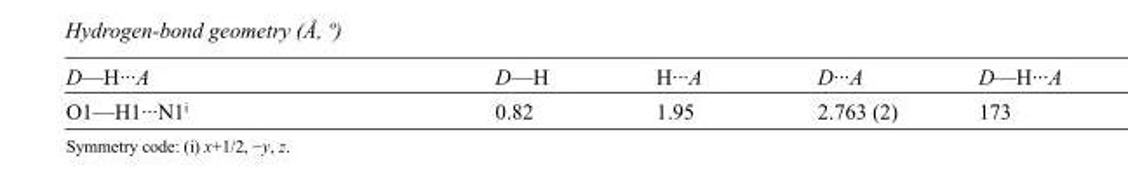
<table><tbody><tr><td>D—H···A</td><td>D—H</td><td>H···A</td><td>D···A</td><td>D—H···A</td></tr><tr><td>O1—H1···N1<sup>i</sup></td><td>0.82</td><td>1.95</td><td>2.763 (2)</td><td>173</td></tr></tbody></table>